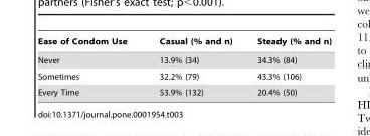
<table><thead><tr><td>Ease of Condom Use</td><td>Casual (% and n)</td><td>Steady (% and n)</td></tr></thead><tbody><tr><td>Never</td><td>13.9% (34)</td><td>34.3% (84)</td></tr><tr><td>Sometimes</td><td>32.2% (79)</td><td>43.3% (106)</td></tr><tr><td>Every Time</td><td>53.9% (132)</td><td>20.4% (50)</td></tr></tbody></table>